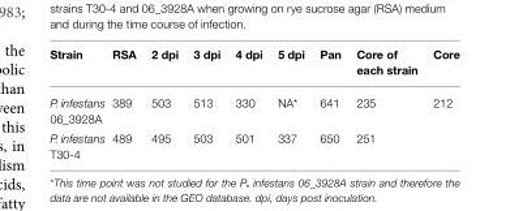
<table><thead><tr><td>Strain</td><td>RSA</td><td>2 dpi</td><td>3 dpi</td><td>4 dpi</td><td>5 dpi</td><td>Pan</td><td>Core of each strain</td><td>Core</td></tr></thead><tbody><tr><td>P. infestans 06_3928A</td><td>389</td><td>503</td><td>513</td><td>330</td><td>NA*</td><td>641</td><td>235</td><td>212</td></tr><tr><td>P. infestans T30-4</td><td>489</td><td>495</td><td>503</td><td>501</td><td>337</td><td>650</td><td>251</td><td></td></tr></tbody></table>